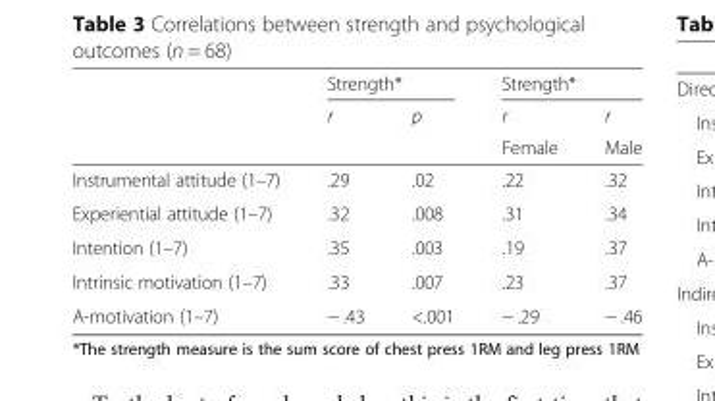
<table><thead><tr><td rowspan="3"></td><td colspan="2">Strength*</td><td colspan="2">Strength*</td></tr><tr><td rowspan="2">r</td><td rowspan="2">p</td><td rowspan="2">r Female</td><td rowspan="2">r Male</td></tr><tr></tr></thead><tbody><tr><td>Instrumental attitude (1–7)</td><td>.29</td><td>.02</td><td>.22</td><td>.32</td></tr><tr><td>Experiential attitude (1–7)</td><td>.32</td><td>.008</td><td>.31</td><td>.34</td></tr><tr><td>Intention (1–7)</td><td>.35</td><td>.003</td><td>.19</td><td>.37</td></tr><tr><td>Intrinsic motivation (1–7)</td><td>.33</td><td>.007</td><td>.23</td><td>.37</td></tr><tr><td>A-motivation (1–7)</td><td>− .43</td><td>&lt;.001</td><td>− .29</td><td>− .46</td></tr></tbody></table>